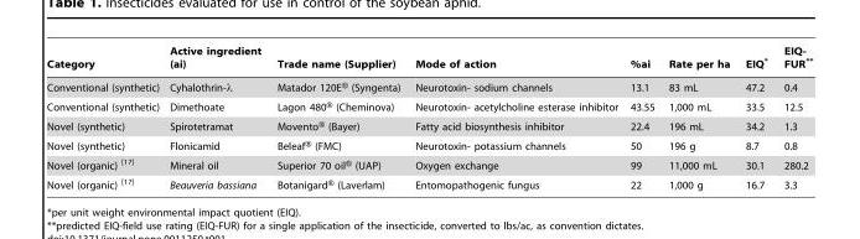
<table><thead><tr><td>Category</td><td>Active ingredient (ai)</td><td>Trade name (Supplier)</td><td>Mode of action</td><td>%ai</td><td>Rate per ha</td><td>EIQ*</td><td>EIQ- FUR**</td></tr></thead><tbody><tr><td>Conventional (synthetic)</td><td>Cyhalothrin-λ</td><td>Matador 120E® (Syngenta)</td><td>Neurotoxin- sodium channels</td><td>13.1</td><td>83 mL</td><td>47.2</td><td>0.4</td></tr><tr><td>Conventional (synthetic)</td><td>Dimethoate</td><td>Lagon 480® (Cheminova)</td><td>Neurotoxin- acetylcholine esterase inhibitor</td><td>43.55</td><td>1,000 mL</td><td>33.5</td><td>12.5</td></tr><tr><td>Novel (synthetic)</td><td>Spirotetramat</td><td>Movento® (Bayer)</td><td>Fatty acid biosynthesis inhibitor</td><td>22.4</td><td>196 mL</td><td>34.2</td><td>1.3</td></tr><tr><td>Novel (synthetic)</td><td>Flonicamid</td><td>Beleaf® (FMC)</td><td>Neurotoxin- potassium channels</td><td>50</td><td>196 g</td><td>8.7</td><td>0.8</td></tr><tr><td>Novel (organic) <sup>[17]</sup></td><td>Mineral oil</td><td>Superior 70 oil® (UAP)</td><td>Oxygen exchange</td><td>99</td><td>11,000 mL</td><td>30.1</td><td>280.2</td></tr><tr><td>Novel (organic) <sup>[17]</sup></td><td>Beauveria bassiana</td><td>Botanigard® (Laverlam)</td><td>Entomopathogenic fungus</td><td>22</td><td>1,000 g</td><td>16.7</td><td>3.3</td></tr></tbody></table>